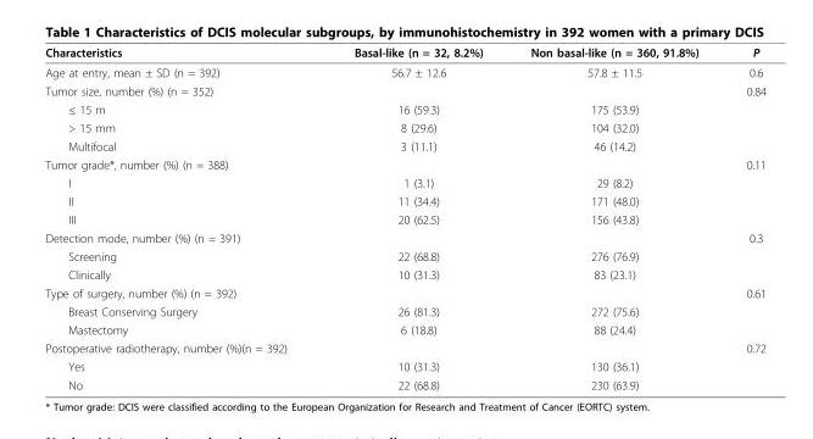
<table><thead><tr><td>Characteristics</td><td>Basal-like (n = 32, 8.2%)</td><td>Non basal-like (n = 360, 91.8%)</td><td>P</td></tr></thead><tbody><tr><td>Age at entry, mean ± SD (n = 392)</td><td>56.7 ± 12.6</td><td>57.8 ± 11.5</td><td>0.6</td></tr><tr><td>Tumor size, number (%) (n = 352)</td><td></td><td></td><td>0.84</td></tr><tr><td>≤ 15 m</td><td>16 (59.3)</td><td>175 (53.9)</td><td></td></tr><tr><td>&gt; 15 mm</td><td>8 (29.6)</td><td>104 (32.0)</td><td></td></tr><tr><td>Multifocal</td><td>3 (11.1)</td><td>46 (14.2)</td><td></td></tr><tr><td>Tumor grade*, number (%) (n = 388)</td><td></td><td></td><td>0.11</td></tr><tr><td>I</td><td>1 (3.1)</td><td>29 (8.2)</td><td></td></tr><tr><td>II</td><td>11 (34.4)</td><td>171 (48.0)</td><td></td></tr><tr><td>III</td><td>20 (62.5)</td><td>156 (43.8)</td><td></td></tr><tr><td>Detection mode, number (%) (n = 391)</td><td></td><td></td><td>0.3</td></tr><tr><td>Screening</td><td>22 (68.8)</td><td>276 (76.9)</td><td></td></tr><tr><td>Clinically</td><td>10 (31.3)</td><td>83 (23.1)</td><td></td></tr><tr><td>Type of surgery, number (%) (n = 392)</td><td></td><td></td><td>0.61</td></tr><tr><td>Breast Conserving Surgery</td><td>26 (81.3)</td><td>272 (75.6)</td><td></td></tr><tr><td>Mastectomy</td><td>6 (18.8)</td><td>88 (24.4)</td><td></td></tr><tr><td>Postoperative radiotherapy, number (%)(n = 392)</td><td></td><td></td><td>0.72</td></tr><tr><td>Yes</td><td>10 (31.3)</td><td>130 (36.1)</td><td></td></tr><tr><td>No</td><td>22 (68.8)</td><td>230 (63.9)</td><td></td></tr></tbody></table>